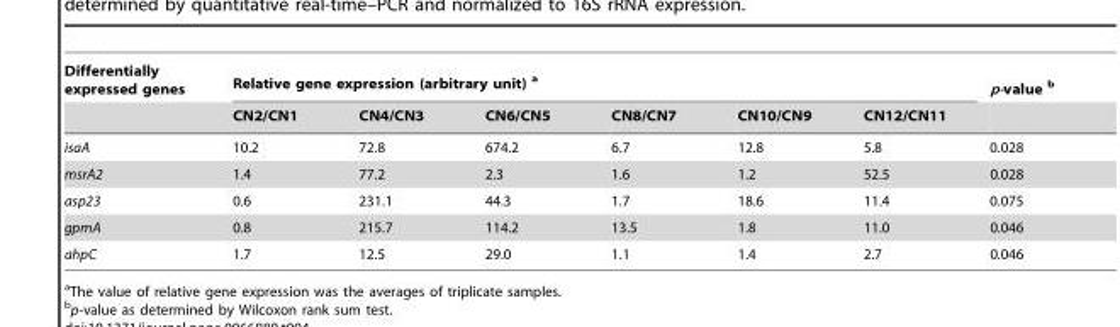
<table><thead><tr><td rowspan="2">Differentially expressed genes</td><td colspan="6">Relative gene expression (arbitrary unit) a</td><td rowspan="2">p-value b</td></tr><tr><td>CN2/CN1</td><td>CN4/CN3</td><td>CN6/CN5</td><td>CN8/CN7</td><td>CN10/CN9</td><td>CN12/CN11</td></tr></thead><tbody><tr><td>isaA</td><td>10.2</td><td>72.8</td><td>674.2</td><td>6.7</td><td>12.8</td><td>5.8</td><td>0.028</td></tr><tr><td>msrA2</td><td>1.4</td><td>77.2</td><td>2.3</td><td>1.6</td><td>1.2</td><td>52.5</td><td>0.028</td></tr><tr><td>asp23</td><td>0.6</td><td>231.1</td><td>44.3</td><td>1.7</td><td>18.6</td><td>11.4</td><td>0.075</td></tr><tr><td>gpmA</td><td>0.8</td><td>215.7</td><td>114.2</td><td>13.5</td><td>1.8</td><td>11.0</td><td>0.046</td></tr><tr><td>ahpC</td><td>1.7</td><td>12.5</td><td>29.0</td><td>1.1</td><td>1.4</td><td>2.7</td><td>0.046</td></tr></tbody></table>